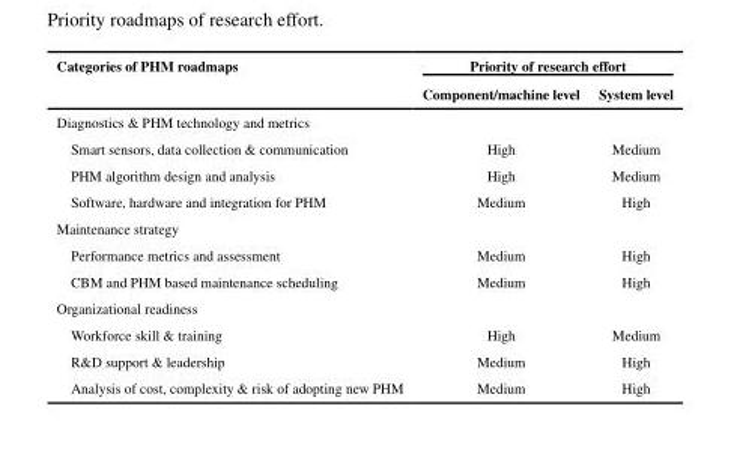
<table><thead><tr><td rowspan="2">Categories of PHM roadmaps</td><td colspan="2">Priority of research effort</td></tr><tr><td>Component/machine level</td><td>System level</td></tr></thead><tbody><tr><td colspan="3">Diagnostics &amp; PHM technology and metrics</td></tr><tr><td>Smart sensors, data collection &amp; communication</td><td>High</td><td>Medium</td></tr><tr><td>PHM algorithm design and analysis</td><td>High</td><td>Medium</td></tr><tr><td>Software, hardware and integration for PHM</td><td>Medium</td><td>High</td></tr><tr><td colspan="3">Maintenance strategy</td></tr><tr><td>Performance metrics and assessment</td><td>Medium</td><td>High</td></tr><tr><td>CBM and PHM based maintenance scheduling</td><td>Medium</td><td>High</td></tr><tr><td colspan="3">Organizational readiness</td></tr><tr><td>Workforce skill &amp; training</td><td>High</td><td>Medium</td></tr><tr><td>R&amp;D support &amp; leadership</td><td>Medium</td><td>High</td></tr><tr><td>Analysis of cost, complexity &amp; risk of adopting new PHM</td><td>Medium</td><td>High</td></tr></tbody></table>